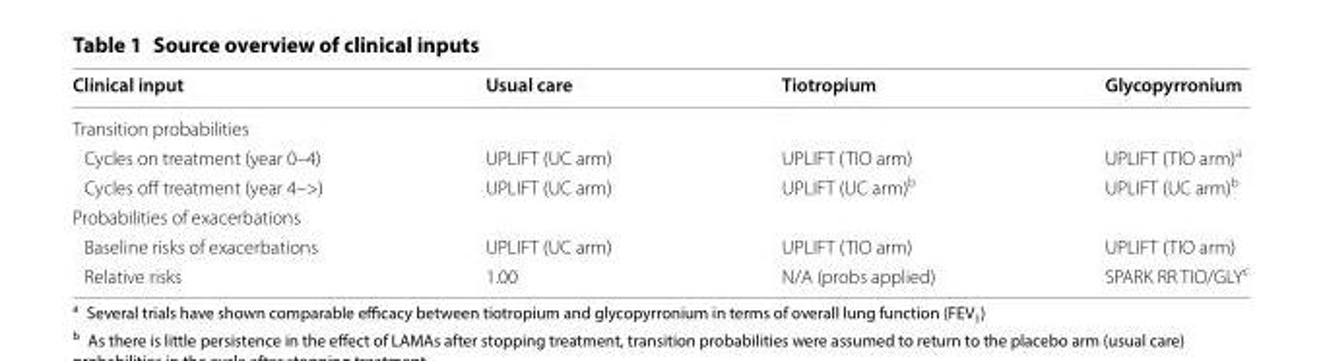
<table><thead><tr><td>Clinical input</td><td>Usual care</td><td>Tiotropium</td><td>Glycopyrronium</td></tr></thead><tbody><tr><td colspan="4">Transition probabilities</td></tr><tr><td>Cycles on treatment (year 0–4)</td><td>UPLIFT (UC arm)</td><td>UPLIFT (TIO arm)</td><td>UPLIFT (TIO arm)<sup>a</sup></td></tr><tr><td>Cycles off treatment (year 4–&gt;)</td><td>UPLIFT (UC arm)</td><td>UPLIFT (UC arm)<sup>b</sup></td><td>UPLIFT (UC arm)<sup>b</sup></td></tr><tr><td colspan="4">Probabilities of exacerbations</td></tr><tr><td>Baseline risks of exacerbations</td><td>UPLIFT (UC arm)</td><td>UPLIFT (TIO arm)</td><td>UPLIFT (TIO arm)</td></tr><tr><td>Relative risks</td><td>1.00</td><td>N/A (probs applied)</td><td>SPARK RR TIO/GLY<sup>c</sup></td></tr></tbody></table>